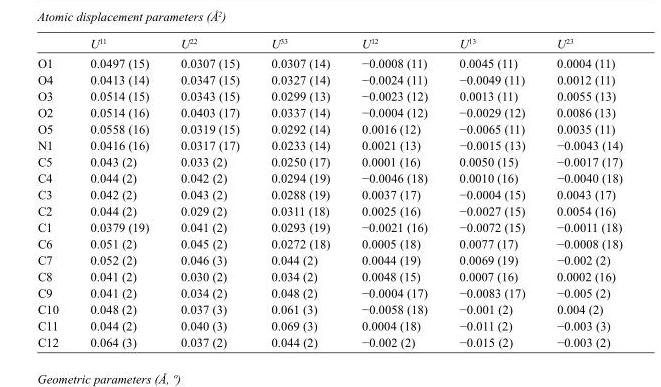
<table><thead><tr><td></td><td>U<sup>11</sup></td><td>U<sup>22</sup></td><td>U<sup>33</sup></td><td>U<sup>12</sup></td><td>U<sup>13</sup></td><td>U<sup>23</sup></td></tr></thead><tbody><tr><td>O1</td><td>0.0497 (15)</td><td>0.0307 (15)</td><td>0.0307 (14)</td><td>−0.0008 (11)</td><td>0.0045 (11)</td><td>0.0004 (11)</td></tr><tr><td>O4</td><td>0.0413 (14)</td><td>0.0347 (15)</td><td>0.0327 (14)</td><td>−0.0024 (11)</td><td>−0.0049 (11)</td><td>0.0012 (11)</td></tr><tr><td>O3</td><td>0.0514 (15)</td><td>0.0343 (15)</td><td>0.0299 (13)</td><td>−0.0023 (12)</td><td>0.0013 (11)</td><td>0.0055 (13)</td></tr><tr><td>O2</td><td>0.0514 (16)</td><td>0.0403 (17)</td><td>0.0337 (14)</td><td>−0.0004 (12)</td><td>−0.0029 (12)</td><td>0.0086 (13)</td></tr><tr><td>O5</td><td>0.0558 (16)</td><td>0.0319 (15)</td><td>0.0292 (14)</td><td>0.0016 (12)</td><td>−0.0065 (11)</td><td>0.0035 (11)</td></tr><tr><td>N1</td><td>0.0416 (16)</td><td>0.0317 (17)</td><td>0.0233 (14)</td><td>0.0021 (13)</td><td>−0.0015 (13)</td><td>−0.0043 (14)</td></tr><tr><td>C5</td><td>0.043 (2)</td><td>0.033 (2)</td><td>0.0250 (17)</td><td>0.0001 (16)</td><td>0.0050 (15)</td><td>−0.0017 (17)</td></tr><tr><td>C4</td><td>0.044 (2)</td><td>0.042 (2)</td><td>0.0294 (19)</td><td>−0.0046 (18)</td><td>0.0010 (16)</td><td>−0.0040 (18)</td></tr><tr><td>C3</td><td>0.042 (2)</td><td>0.043 (2)</td><td>0.0288 (19)</td><td>0.0037 (17)</td><td>−0.0004 (15)</td><td>0.0043 (17)</td></tr><tr><td>C2</td><td>0.044 (2)</td><td>0.029 (2)</td><td>0.0311 (18)</td><td>0.0025 (16)</td><td>−0.0027 (15)</td><td>0.0054 (16)</td></tr><tr><td>C1</td><td>0.0379 (19)</td><td>0.041 (2)</td><td>0.0293 (19)</td><td>−0.0021 (16)</td><td>−0.0072 (15)</td><td>−0.0011 (18)</td></tr><tr><td>C6</td><td>0.051 (2)</td><td>0.045 (2)</td><td>0.0272 (18)</td><td>0.0005 (18)</td><td>0.0077 (17)</td><td>−0.0008 (18)</td></tr><tr><td>C7</td><td>0.052 (2)</td><td>0.046 (3)</td><td>0.044 (2)</td><td>0.0044 (19)</td><td>0.0069 (19)</td><td>−0.002 (2)</td></tr><tr><td>C8</td><td>0.041 (2)</td><td>0.030 (2)</td><td>0.034 (2)</td><td>0.0048 (15)</td><td>0.0007 (16)</td><td>0.0002 (16)</td></tr><tr><td>C9</td><td>0.041 (2)</td><td>0.034 (2)</td><td>0.048 (2)</td><td>−0.0004 (17)</td><td>−0.0083 (17)</td><td>−0.005 (2)</td></tr><tr><td>C10</td><td>0.048 (2)</td><td>0.037 (3)</td><td>0.061 (3)</td><td>−0.0058 (18)</td><td>−0.001 (2)</td><td>0.004 (2)</td></tr><tr><td>C11</td><td>0.044 (2)</td><td>0.040 (3)</td><td>0.069 (3)</td><td>0.0004 (18)</td><td>−0.011 (2)</td><td>−0.003 (3)</td></tr><tr><td>C12</td><td>0.064 (3)</td><td>0.037 (2)</td><td>0.044 (2)</td><td>−0.002 (2)</td><td>−0.015 (2)</td><td>−0.003 (2)</td></tr></tbody></table>